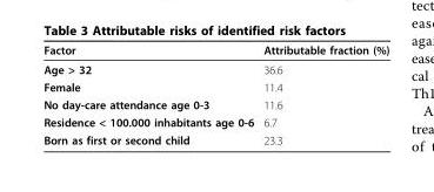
<table><thead><tr><td>Factor</td><td>Attributable fraction (%)</td></tr></thead><tbody><tr><td>Age &gt; 32</td><td>36.6</td></tr><tr><td>Female</td><td>11.4</td></tr><tr><td>No day-care attendance age 0-3</td><td>11.6</td></tr><tr><td>Residence &lt; 100.000 inhabitants age 0-6</td><td>6.7</td></tr><tr><td>Born as first or second child</td><td>23.3</td></tr></tbody></table>